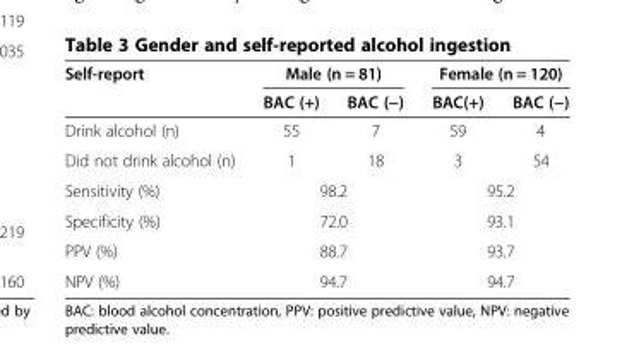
<table><thead><tr><td rowspan="2">Self-report</td><td colspan="2">Male (n = 81)</td><td colspan="2">Female (n = 120)</td></tr><tr><td>BAC (+)</td><td>BAC (−)</td><td>BAC(+)</td><td>BAC (−)</td></tr></thead><tbody><tr><td>Drink alcohol (n)</td><td>55</td><td>7</td><td>59</td><td>4</td></tr><tr><td>Did not drink alcohol (n)</td><td>1</td><td>18</td><td>3</td><td>54</td></tr><tr><td>Sensitivity (%)</td><td colspan="2">98.2</td><td colspan="2">95.2</td></tr><tr><td>Specificity (%)</td><td colspan="2">72.0</td><td colspan="2">93.1</td></tr><tr><td>PPV (%)</td><td colspan="2">88.7</td><td colspan="2">93.7</td></tr><tr><td>NPV (%)</td><td colspan="2">94.7</td><td colspan="2">94.7</td></tr></tbody></table>